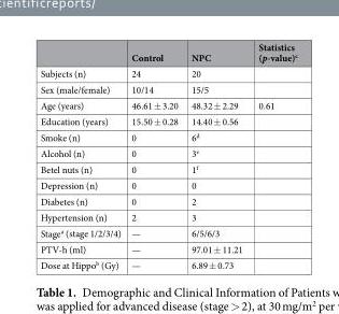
<table><thead><tr><td></td><td>Control</td><td>NPC</td><td>Statistics (p-value)<sup>c</sup></td></tr></thead><tbody><tr><td>Subjects (n)</td><td>24</td><td>20</td><td></td></tr><tr><td>Sex (male/female)</td><td>10/14</td><td>15/5</td><td></td></tr><tr><td>Age (years)</td><td>46.61 ± 3.20</td><td>48.32 ± 2.29</td><td>0.61</td></tr><tr><td>Education (years)</td><td>15.50 ± 0.28</td><td>14.40 ± 0.56</td><td></td></tr><tr><td>Smoke (n)</td><td>0</td><td>6<sup>d</sup></td><td></td></tr><tr><td>Alcohol (n)</td><td>0</td><td>3<sup>e</sup></td><td></td></tr><tr><td>Betel nuts (n)</td><td>0</td><td>1<sup>f</sup></td><td></td></tr><tr><td>Depression (n)</td><td>0</td><td>0</td><td></td></tr><tr><td>Diabetes (n)</td><td>0</td><td>2</td><td></td></tr><tr><td>Hypertension (n)</td><td>2</td><td>3</td><td></td></tr><tr><td>Stage<sup>a</sup> (stage 1/2/3/4)</td><td>—</td><td>6/5/6/3</td><td></td></tr><tr><td>PTV-h (ml)</td><td>—</td><td>97.01 ± 11.21</td><td></td></tr><tr><td>Dose at Hippo<sup>b</sup> (Gy)</td><td>—</td><td>6.89 ± 0.73</td><td></td></tr></tbody></table>